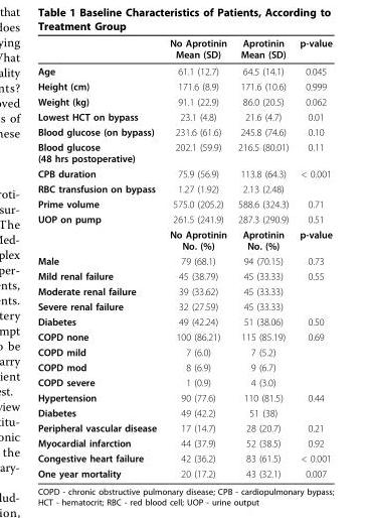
<table><thead><tr><td></td><td>No Aprotinin Mean (SD)</td><td>Aprotinin Mean (SD)</td><td>p-value</td></tr></thead><tbody><tr><td>Age</td><td>61.1 (12.7)</td><td>64.5 (14.1)</td><td>0.045</td></tr><tr><td>Height (cm)</td><td>171.6 (8.9)</td><td>171.6 (10.6)</td><td>0.999</td></tr><tr><td>Weight (kg)</td><td>91.1 (22.9)</td><td>86.0 (20.5)</td><td>0.062</td></tr><tr><td>Lowest HCT on bypass</td><td>23.1 (4.8)</td><td>21.6 (4.7)</td><td>0.01</td></tr><tr><td>Blood glucose (on bypass)</td><td>231.6 (61.6)</td><td>245.8 (74.6)</td><td>0.10</td></tr><tr><td>Blood glucose (48 hrs postoperative)</td><td>202.1 (59.9)</td><td>216.5 (80.01)</td><td>0.11</td></tr><tr><td>CPB duration</td><td>75.9 (56.9)</td><td>113.8 (64.3)</td><td>&lt; 0.001</td></tr><tr><td>RBC transfusion on bypass</td><td>1.27 (1.92)</td><td>2.13 (2.48)</td><td></td></tr><tr><td>Prime volume</td><td>575.0 (205.2)</td><td>588.6 (324.3)</td><td>0.71</td></tr><tr><td rowspan="2">UOP on pump</td><td>261.5 (241.9)</td><td>287.3 (290.9)</td><td>0.51</td></tr><tr><td>No Aprotinin No. (%)</td><td>Aprotinin No. (%)</td><td>p-value</td></tr><tr><td>Male</td><td>79 (68.1)</td><td>94 (70.15)</td><td>0.73</td></tr><tr><td>Mild renal failure</td><td>45 (38.79)</td><td>45 (33.33)</td><td>0.55</td></tr><tr><td>Moderate renal failure</td><td>39 (33.62)</td><td>45 (33.33)</td><td></td></tr><tr><td>Severe renal failure</td><td>32 (27.59)</td><td>45 (33.33)</td><td></td></tr><tr><td>Diabetes</td><td>49 (42.24)</td><td>51 (38.06)</td><td>0.50</td></tr><tr><td>COPD none</td><td>100 (86.21)</td><td>115 (85.19)</td><td>0.69</td></tr><tr><td>COPD mild</td><td>7 (6.0)</td><td>7 (5.2)</td><td></td></tr><tr><td>COPD mod</td><td>8 (6.9)</td><td>9 (6.7)</td><td></td></tr><tr><td>COPD severe</td><td>1 (0.9)</td><td>4 (3.0)</td><td></td></tr><tr><td>Hypertension</td><td>90 (77.6)</td><td>110 (81.5)</td><td>0.44</td></tr><tr><td>Diabetes</td><td>49 (42.2)</td><td>51 (38)</td><td></td></tr><tr><td>Peripheral vascular disease</td><td>17 (14.7)</td><td>28 (20.7)</td><td>0.21</td></tr><tr><td>Myocardial infarction</td><td>44 (37.9)</td><td>52 (38.5)</td><td>0.92</td></tr><tr><td>Congestive heart failure</td><td>42 (36.2)</td><td>83 (61.5)</td><td>&lt; 0.001</td></tr><tr><td>One year mortality</td><td>20 (17.2)</td><td>43 (32.1)</td><td>0.007</td></tr></tbody></table>